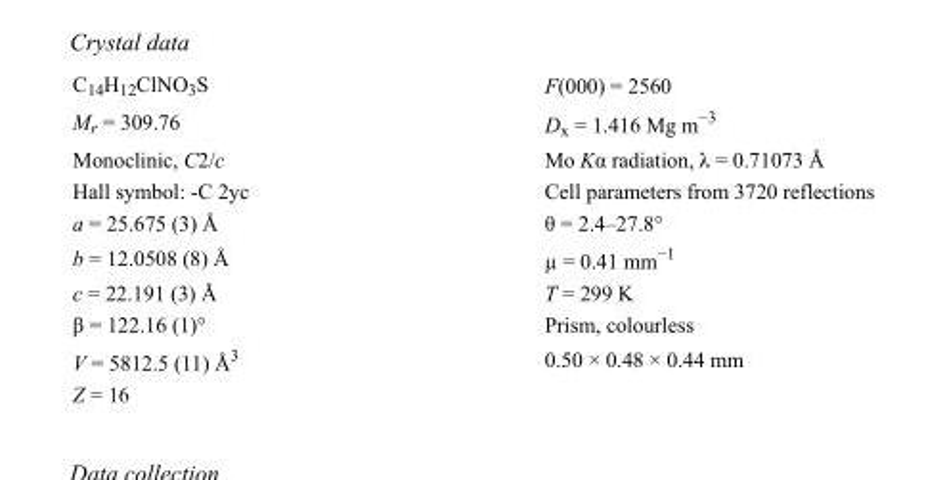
<table><tbody><tr><td>C<sub>14</sub>H<sub>12</sub>ClNO<sub>3</sub>S</td><td>F(000) = 2560</td></tr><tr><td>M<sub>r</sub> = 309.76</td><td>D<sub>x</sub> = 1.416 Mg m<sup>−3</sup></td></tr><tr><td>Monoclinic, C2/c</td><td>Mo Kα radiation, λ = 0.71073 Å</td></tr><tr><td>Hall symbol: -C 2yc</td><td>Cell parameters from 3720 reflections</td></tr><tr><td>a = 25.675 (3) Å</td><td>θ = 2.4–27.8°</td></tr><tr><td>b = 12.0508 (8) Å</td><td>µ = 0.41 mm<sup>−1</sup></td></tr><tr><td>c = 22.191 (3) Å</td><td>T = 299 K</td></tr><tr><td>β = 122.16 (1)°</td><td>Prism, colourless</td></tr><tr><td>V = 5812.5 (11) Å<sup>3</sup></td><td>0.50 × 0.48 × 0.44 mm</td></tr><tr><td>Z = 16</td><td></td></tr></tbody></table>